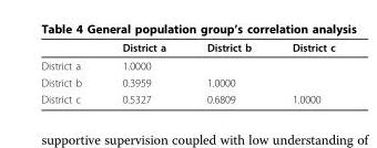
<table><thead><tr><td></td><td>District a</td><td>District b</td><td>District c</td></tr></thead><tbody><tr><td>District a</td><td>1.0000</td><td></td><td></td></tr><tr><td>District b</td><td>0.3959</td><td>1.0000</td><td></td></tr><tr><td>District c</td><td>0.5327</td><td>0.6809</td><td>1.0000</td></tr></tbody></table>